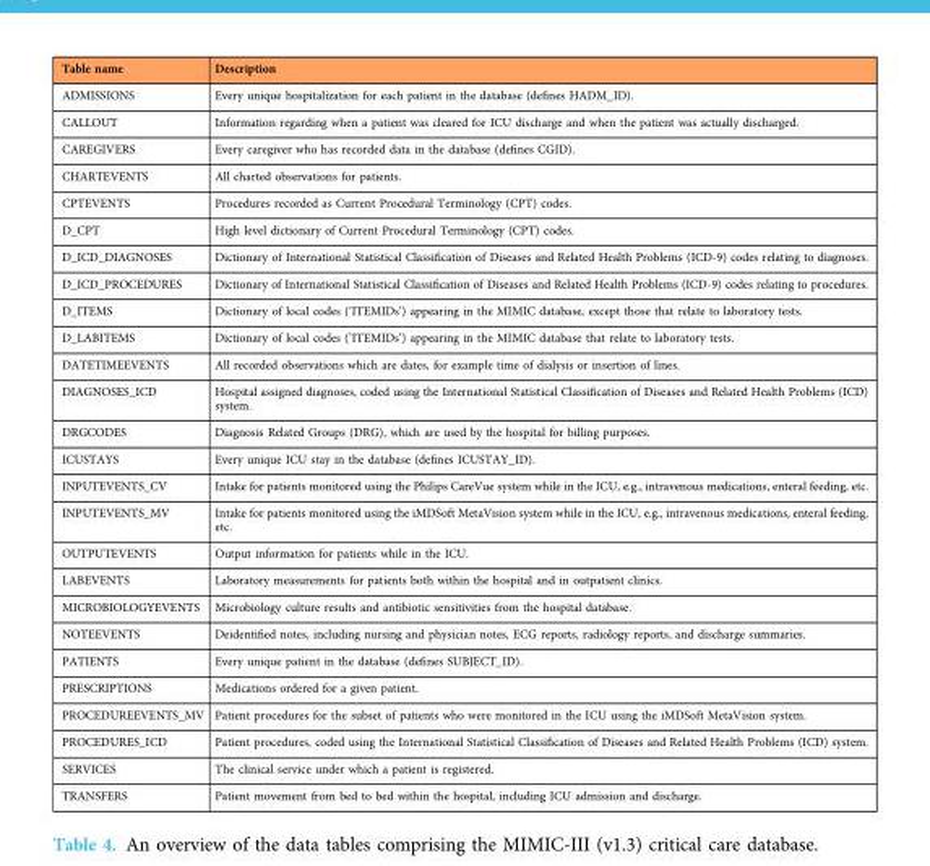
<table><thead><tr><td>Table name</td><td>Description</td></tr></thead><tbody><tr><td>ADMISSIONS</td><td>Every unique hospitalization for each patient in the database (defines HADM_ID).</td></tr><tr><td>CALLOUT</td><td>Information regarding when a patient was cleared for ICU discharge and when the patient was actually discharged.</td></tr><tr><td>CAREGIVERS</td><td>Every caregiver who has recorded data in the database (defines CGID).</td></tr><tr><td>CHARTEVENTS</td><td>All charted observations for patients.</td></tr><tr><td>CPTEVENTS</td><td>Procedures recorded as Current Procedural Terminology (CPT) codes.</td></tr><tr><td>D_CPT</td><td>High level dictionary of Current Procedural Terminology (CPT) codes.</td></tr><tr><td>D_ICD_DIAGNOSES</td><td>Dictionary of International Statistical Classification of Diseases and Related Health Problems (ICD-9) codes relating to diagnoses.</td></tr><tr><td>D_ICD_PROCEDURES</td><td>Dictionary of International Statistical Classification of Diseases and Related Health Problems (ICD-9) codes relating to procedures.</td></tr><tr><td>D_ITEMS</td><td>Dictionary of local codes (’ITEMIDs’) appearing in the MIMIC database, except those that relate to laboratory tests.</td></tr><tr><td>D_LABITEMS</td><td>Dictionary of local codes (’ITEMIDs’) appearing in the MIMIC database that relate to laboratory tests.</td></tr><tr><td>DATETIMEEVENTS</td><td>All recorded observations which are dates, for example time of dialysis or insertion of lines.</td></tr><tr><td>DIAGNOSES_ICD</td><td>Hospital assigned diagnoses, coded using the International Statistical Classification of Diseases and Related Health Problems (ICD) system.</td></tr><tr><td>DRGCODES</td><td>Diagnosis Related Groups (DRG), which are used by the hospital for billing purposes.</td></tr><tr><td>ICUSTAYS</td><td>Every unique ICU stay in the database (defines ICUSTAY_ID).</td></tr><tr><td>INPUTEVENTS_CV</td><td>Intake for patients monitored using the Philips CareVue system while in the ICU, e.g., intravenous medications, enteral feeding, etc.</td></tr><tr><td>INPUTEVENTS_MV</td><td>Intake for patients monitored using the iMDSoft MetaVision system while in the ICU, e.g., intravenous medications, enteral feeding, etc.</td></tr><tr><td>OUTPUTEVENTS</td><td>Output information for patients while in the ICU.</td></tr><tr><td>LABEVENTS</td><td>Laboratory measurements for patients both within the hospital and in outpatient clinics.</td></tr><tr><td>MICROBIOLOGYEVENTS</td><td>Microbiology culture results and antibiotic sensitivities from the hospital database.</td></tr><tr><td>NOTEEVENTS</td><td>Deidentified notes, including nursing and physician notes, ECG reports, radiology reports, and discharge summaries.</td></tr><tr><td>PATIENTS</td><td>Every unique patient in the database (defines SUBJECT_ID).</td></tr><tr><td>PRESCRIPTIONS</td><td>Medications ordered for a given patient.</td></tr><tr><td>PROCEDUREEVENTS_MV</td><td>Patient procedures for the subset of patients who were monitored in the ICU using the iMDSoft MetaVision system.</td></tr><tr><td>PROCEDURES_ICD</td><td>Patient procedures, coded using the International Statistical Classification of Diseases and Related Health Problems (ICD) system.</td></tr><tr><td>SERVICES</td><td>The clinical service under which a patient is registered.</td></tr><tr><td>TRANSFERS</td><td>Patient movement from bed to bed within the hospital, including ICU admission and discharge.</td></tr></tbody></table>